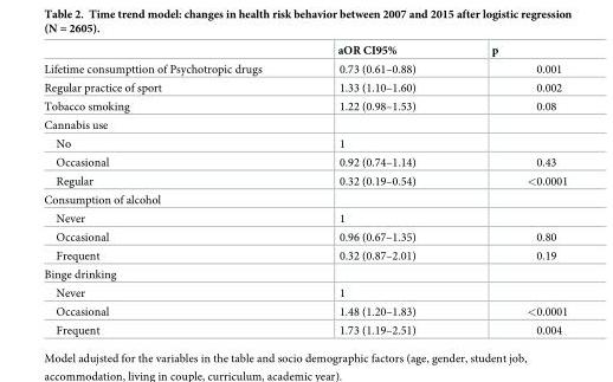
<table><thead><tr><td></td><td>aOR CI95%</td><td>p</td></tr></thead><tbody><tr><td>Lifetime consumpttion of Psychotropic drugs</td><td>0.73 (0.61–0.88)</td><td>0.001</td></tr><tr><td>Regular practice of sport</td><td>1.33 (1.10–1.60)</td><td>0.002</td></tr><tr><td>Tobacco smoking</td><td>1.22 (0.98–1.53)</td><td>0.08</td></tr><tr><td colspan="3">Cannabis use</td></tr><tr><td>No</td><td>1</td><td></td></tr><tr><td>Occasional</td><td>0.92 (0.74–1.14)</td><td>0.43</td></tr><tr><td>Regular</td><td>0.32 (0.19–0.54)</td><td>&lt;0.0001</td></tr><tr><td colspan="3">Consumption of alcohol</td></tr><tr><td>Never</td><td>1</td><td></td></tr><tr><td>Occasional</td><td>0.96 (0.67–1.35)</td><td>0.80</td></tr><tr><td>Frequent</td><td>0.32 (0.87–2.01)</td><td>0.19</td></tr><tr><td colspan="3">Binge drinking</td></tr><tr><td>Never</td><td>1</td><td></td></tr><tr><td>Occasional</td><td>1.48 (1.20–1.83)</td><td>&lt;0.0001</td></tr><tr><td>Frequent</td><td>1.73 (1.19–2.51)</td><td>0.004</td></tr></tbody></table>